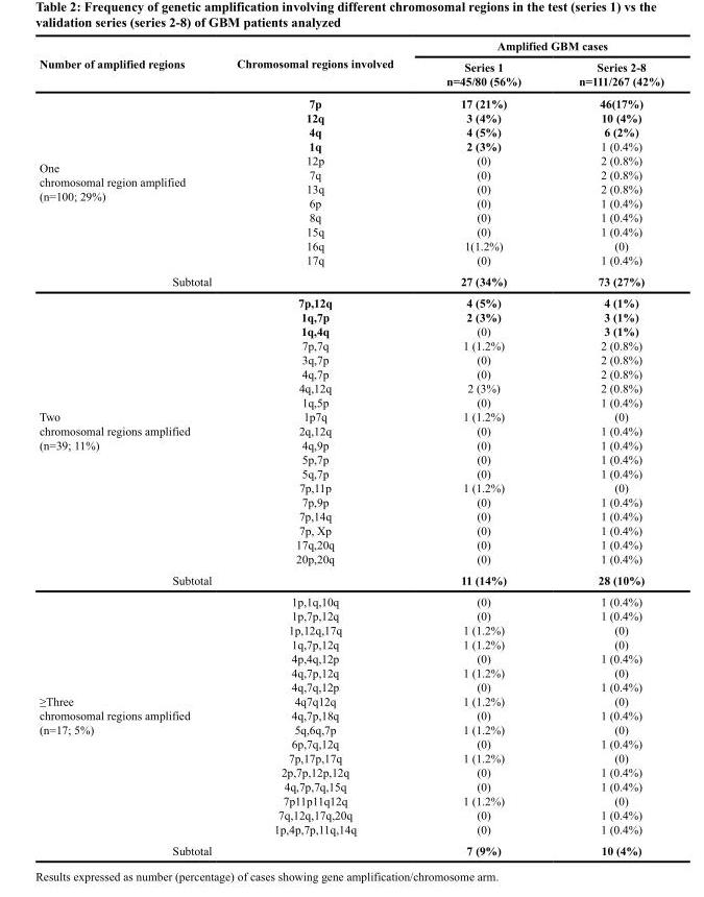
<table><thead><tr><td rowspan="2">Number of amplified regions</td><td rowspan="2">Chromosomal regions involved</td><td colspan="2">Amplified GBM cases</td></tr><tr><td>Series 1 n=45/80 (56%)</td><td>Series 2-8 n=111/267 (42%)</td></tr></thead><tbody><tr><td>One chromosomal region amplified (n=100; 29%)</td><td>7p 12q 4q 1q 12p 7q 13q 6p 8q 15q 16q 17q</td><td>17 (21%) 3 (4%) 4 (5%) 2 (3%) (0) (0) (0) (0) (0) (0) 1(1.2%) (0)</td><td>46(17%) 10 (4%) 6 (2%) 1 (0.4%) 2 (0.8%) 2 (0.8%) 2 (0.8%) 1 (0.4%) 1 (0.4%) 1 (0.4%) (0) 1 (0.4%)</td></tr><tr><td colspan="2">Subtotal</td><td>27 (34%)</td><td>73 (27%)</td></tr><tr><td>Two chromosomal regions amplified (n=39; 11%)</td><td>7p,12q 1q,7p 1q,4q 7p,7q 3q,7p 4q,7p 4q,12q 1q,5p 1p7q 2q,12q 4q,9p 5p,7p 5q,7p 7p,11p 7p,9p 7p,14q 7p, Xp 17q,20q 20p,20q</td><td>4 (5%) 2 (3%) (0) 1 (1.2%) (0) (0) 2 (3%) (0) 1 (1.2%) (0) (0) (0) (0) 1 (1.2%) (0) (0) (0) (0) (0)</td><td>4 (1%) 3 (1%) 3 (1%) 2 (0.8%) 2 (0.8%) 2 (0.8%) 2 (0.8%) 1 (0.4%) (0) 1 (0.4%) 1 (0.4%) 1 (0.4%) 1 (0.4%) (0) 1 (0.4%) 1 (0.4%) 1 (0.4%) 1 (0.4%) 1 (0.4%)</td></tr><tr><td colspan="2">Subtotal</td><td>11 (14%)</td><td>28 (10%)</td></tr><tr><td>≥Three chromosomal regions amplified (n=17; 5%)</td><td>1p,1q,10q 1p,7p,12q 1p,12q,17q 1q,7p,12q 4p,4q,12p 4q,7p,12q 4q,7q,12p 4q7q12q 4q,7p,18q 5q,6q,7p 6p,7q,12q 7p,17p,17q 2p,7p,12p,12q 4q,7p,7q,15q 7p11p11q12q 7q,12q,17q,20q 1p,4p,7p,11q,14q</td><td>(0) (0) 1 (1.2%) 1 (1.2%) (0) 1 (1.2%) (0) 1 (1.2%) (0) 1 (1.2%) (0) 1 (1.2%) (0) (0) 1 (1.2%) (0) (0)</td><td>1 (0.4%) 1 (0.4%) (0) (0) 1 (0.4%) (0) 1 (0.4%) (0) 1 (0.4%) (0) 1 (0.4%) (0) 1 (0.4%) 1 (0.4%) (0) 1 (0.4%) 1 (0.4%)</td></tr><tr><td colspan="2">Subtotal</td><td>7 (9%)</td><td>10 (4%)</td></tr></tbody></table>